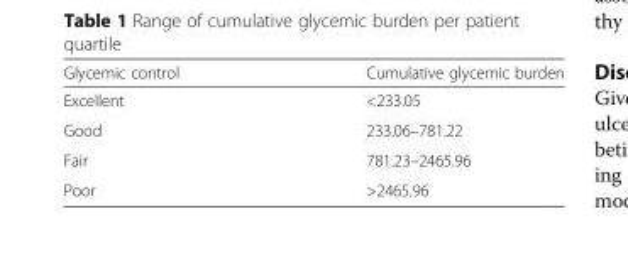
<table><thead><tr><td>Glycemic control</td><td>Cumulative glycemic burden</td></tr></thead><tbody><tr><td>Excellent</td><td>&lt;233.05</td></tr><tr><td>Good</td><td>233.06–781.22</td></tr><tr><td>Fair</td><td>781.23–2465.96</td></tr><tr><td>Poor</td><td>&gt;2465.96</td></tr></tbody></table>